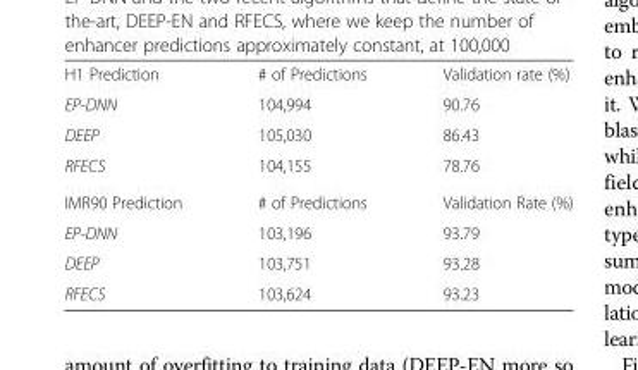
<table><tbody><tr><td>H1 Prediction</td><td># of Predictions</td><td>Validation rate (%)</td></tr><tr><td>EP-DNN</td><td>104,994</td><td>90.76</td></tr><tr><td>DEEP</td><td>105,030</td><td>86.43</td></tr><tr><td>RFECS</td><td>104,155</td><td>78.76</td></tr><tr><td>IMR90 Prediction</td><td># of Predictions</td><td>Validation Rate (%)</td></tr><tr><td>EP-DNN</td><td>103,196</td><td>93.79</td></tr><tr><td>DEEP</td><td>103,751</td><td>93.28</td></tr><tr><td>RFECS</td><td>103,624</td><td>93.23</td></tr></tbody></table>